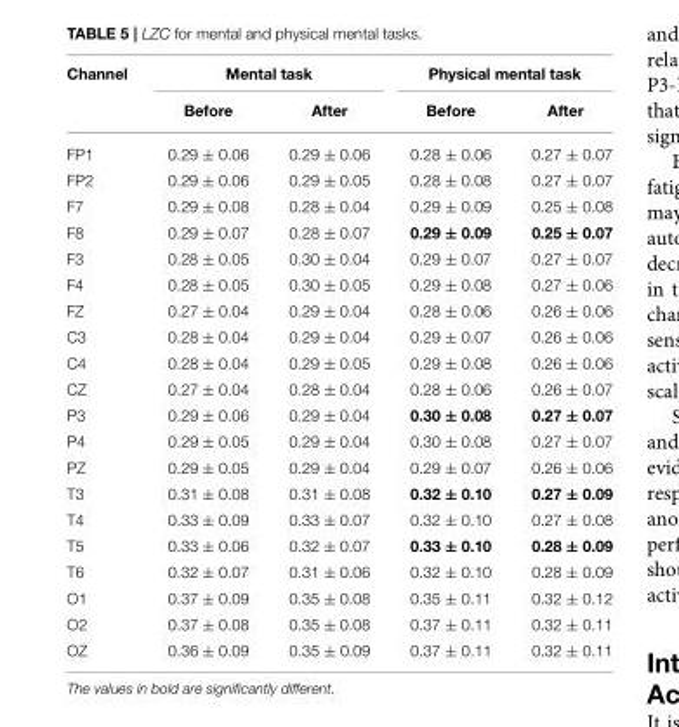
<table><thead><tr><td rowspan="2">Channel</td><td colspan="2">Mental task</td><td colspan="2">Physical mental task</td></tr><tr><td>Before</td><td>After</td><td>Before</td><td>After</td></tr></thead><tbody><tr><td>FP1</td><td>0.29 ± 0.06</td><td>0.29 ± 0.06</td><td>0.28 ± 0.06</td><td>0.27 ± 0.07</td></tr><tr><td>FP2</td><td>0.29 ± 0.06</td><td>0.29 ± 0.05</td><td>0.28 ± 0.08</td><td>0.27 ± 0.07</td></tr><tr><td>F7</td><td>0.29 ± 0.08</td><td>0.28 ± 0.04</td><td>0.29 ± 0.09</td><td>0.25 ± 0.08</td></tr><tr><td>F8</td><td>0.29 ± 0.07</td><td>0.28 ± 0.07</td><td>0.29 ± 0.09</td><td>0.25 ± 0.07</td></tr><tr><td>F3</td><td>0.28 ± 0.05</td><td>0.30 ± 0.04</td><td>0.29 ± 0.07</td><td>0.27 ± 0.07</td></tr><tr><td>F4</td><td>0.28 ± 0.05</td><td>0.30 ± 0.05</td><td>0.29 ± 0.08</td><td>0.27 ± 0.06</td></tr><tr><td>FZ</td><td>0.27 ± 0.04</td><td>0.29 ± 0.04</td><td>0.28 ± 0.06</td><td>0.26 ± 0.06</td></tr><tr><td>C3</td><td>0.28 ± 0.04</td><td>0.29 ± 0.04</td><td>0.29 ± 0.07</td><td>0.26 ± 0.06</td></tr><tr><td>C4</td><td>0.28 ± 0.04</td><td>0.29 ± 0.05</td><td>0.29 ± 0.08</td><td>0.26 ± 0.06</td></tr><tr><td>CZ</td><td>0.27 ± 0.04</td><td>0.28 ± 0.04</td><td>0.28 ± 0.06</td><td>0.26 ± 0.07</td></tr><tr><td>P3</td><td>0.29 ± 0.06</td><td>0.29 ± 0.04</td><td>0.30 ± 0.08</td><td>0.27 ± 0.07</td></tr><tr><td>P4</td><td>0.29 ± 0.05</td><td>0.29 ± 0.04</td><td>0.30 ± 0.08</td><td>0.27 ± 0.07</td></tr><tr><td>PZ</td><td>0.29 ± 0.05</td><td>0.29 ± 0.04</td><td>0.29 ± 0.07</td><td>0.26 ± 0.06</td></tr><tr><td>T3</td><td>0.31 ± 0.08</td><td>0.31 ± 0.08</td><td>0.32 ± 0.10</td><td>0.27 ± 0.09</td></tr><tr><td>T4</td><td>0.33 ± 0.09</td><td>0.33 ± 0.07</td><td>0.32 ± 0.10</td><td>0.27 ± 0.08</td></tr><tr><td>T5</td><td>0.33 ± 0.06</td><td>0.32 ± 0.07</td><td>0.33 ± 0.10</td><td>0.28 ± 0.09</td></tr><tr><td>T6</td><td>0.32 ± 0.07</td><td>0.31 ± 0.06</td><td>0.32 ± 0.10</td><td>0.28 ± 0.09</td></tr><tr><td>O1</td><td>0.37 ± 0.09</td><td>0.35 ± 0.08</td><td>0.35 ± 0.11</td><td>0.32 ± 0.12</td></tr><tr><td>O2</td><td>0.37 ± 0.08</td><td>0.35 ± 0.08</td><td>0.37 ± 0.11</td><td>0.32 ± 0.11</td></tr><tr><td>OZ</td><td>0.36 ± 0.09</td><td>0.35 ± 0.09</td><td>0.37 ± 0.11</td><td>0.32 ± 0.11</td></tr></tbody></table>